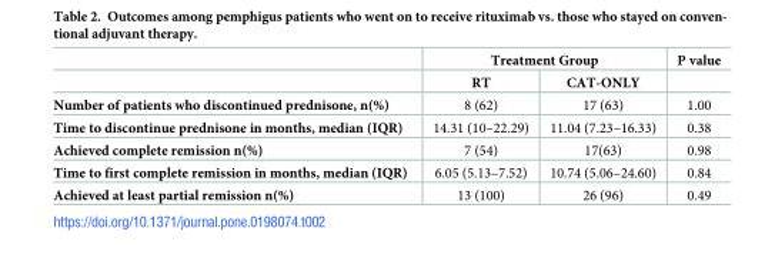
<table><thead><tr><td rowspan="2"></td><td colspan="2">Treatment Group</td><td rowspan="2">P value</td></tr><tr><td>RT</td><td>CAT-ONLY</td></tr></thead><tbody><tr><td>Number of patients who discontinued prednisone, n(%)</td><td>8 (62)</td><td>17 (63)</td><td>1.00</td></tr><tr><td>Time to discontinue prednisone in months, median (IQR)</td><td>14.31 (10–22.29)</td><td>11.04 (7.23–16.33)</td><td>0.38</td></tr><tr><td>Achieved complete remission n(%)</td><td>7 (54)</td><td>17(63)</td><td>0.98</td></tr><tr><td>Time to first complete remission in months, median (IQR)</td><td>6.05 (5.13–7.52)</td><td>10.74 (5.06–24.60)</td><td>0.84</td></tr><tr><td>Achieved at least partial remission n(%)</td><td>13 (100)</td><td>26 (96)</td><td>0.49</td></tr></tbody></table>